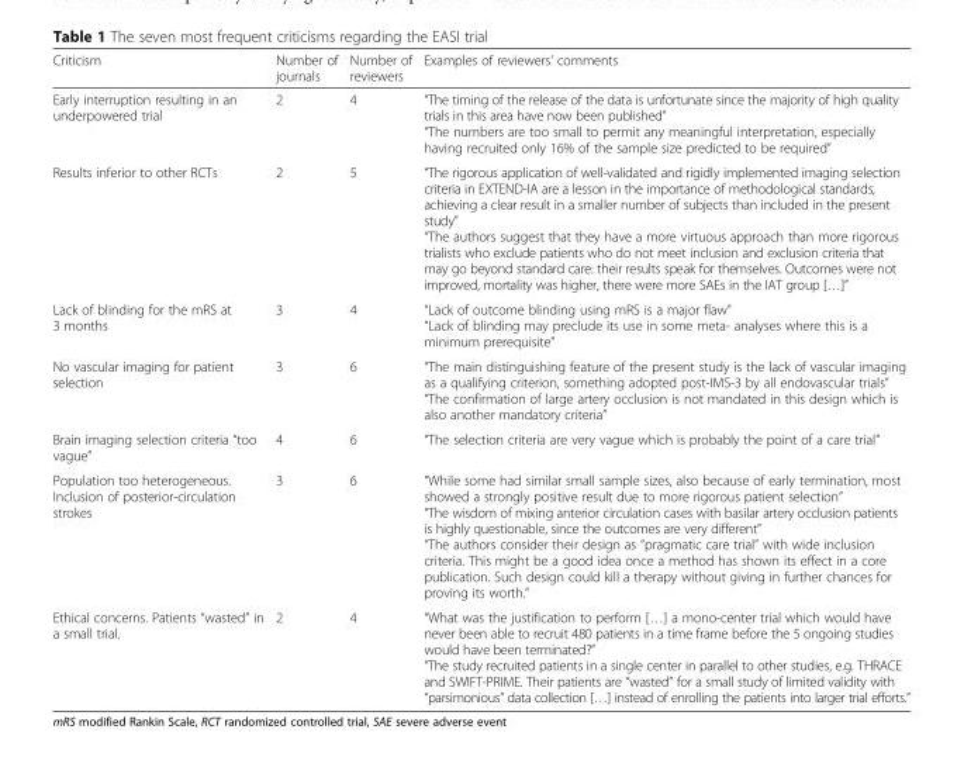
<table><thead><tr><td>Criticism</td><td>Number of journals</td><td>Number of reviewers</td><td>Examples of reviewers&#x27; comments</td></tr></thead><tbody><tr><td>Early interruption resulting in an underpowered trial</td><td>2</td><td>4</td><td>“The timing of the release of the data is unfortunate since the majority of high quality trials in this area have now been published” “The numbers are too small to permit any meaningful interpretation, especially having recruited only 16% of the sample size predicted to be required”</td></tr><tr><td>Results inferior to other RCTs</td><td>2</td><td>5</td><td>“The rigorous application of well-validated and rigidly implemented imaging selection criteria in EXTEND-IA are a lesson in the importance of methodological standards, achieving a clear result in a smaller number of subjects than included in the present study” “The authors suggest that they have a more virtuous approach than more rigorous trialists who exclude patients who do not meet inclusion and exclusion criteria that may go beyond standard care: their results speak for themselves. Outcomes were not improved, mortality was higher, there were more SAEs in the IAT group […]”</td></tr><tr><td>Lack of blinding for the mRS at 3 months</td><td>3</td><td>4</td><td>“Lack of outcome blinding using mRS is a major flaw” “Lack of blinding may preclude its use in some meta- analyses where this is a minimum prerequisite”</td></tr><tr><td>No vascular imaging for patient selection</td><td>3</td><td>6</td><td>“The main distinguishing feature of the present study is the lack of vascular imaging as a qualifying criterion, something adopted post-IMS-3 by all endovascular trials” “The confirmation of large artery occlusion is not mandated in this design which is also another mandatory criteria”</td></tr><tr><td>Brain imaging selection criteria “too vague”</td><td>4</td><td>6</td><td>“The selection criteria are very vague which is probably the point of a care trial”</td></tr><tr><td>Population too heterogeneous. Inclusion of posterior-circulation strokes</td><td>3</td><td>6</td><td>“While some had similar small sample sizes, also because of early termination, most showed a strongly positive result due to more rigorous patient selection” “The wisdom of mixing anterior circulation cases with basilar artery occlusion patients is highly questionable, since the outcomes are very different” “The authors consider their design as “pragmatic care trial” with wide inclusion criteria. This might be a good idea once a method has shown its effect in a core publication. Such design could kill a therapy without giving in further chances for proving its worth.”</td></tr><tr><td>Ethical concerns. Patients “wasted” in a small trial.</td><td>2</td><td>4</td><td>“What was the justification to perform […] a mono-center trial which would have never been able to recruit 480 patients in a time frame before the 5 ongoing studies would have been terminated?” “The study recruited patients in a single center in parallel to other studies, e.g. THRACE and SWIFT-PRIME. Their patients are “wasted” for a small study of limited validity with “parsimonious” data collection […] instead of enrolling the patients into larger trial efforts.”</td></tr></tbody></table>